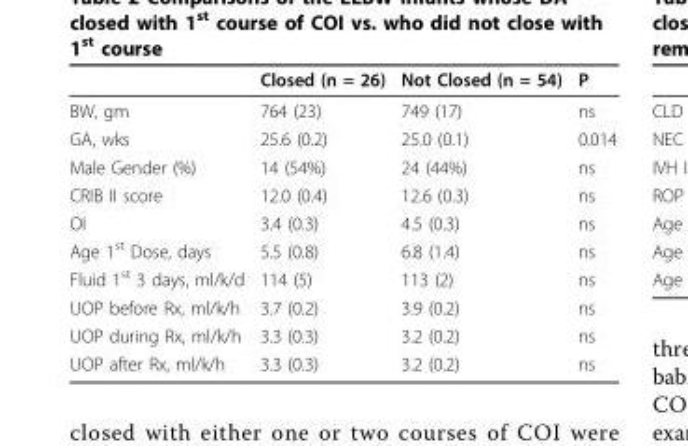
<table><thead><tr><td></td><td>Closed (n = 26)</td><td>Not Closed (n = 54)</td><td>P</td></tr></thead><tbody><tr><td>BW, gm</td><td>764 (23)</td><td>749 (17)</td><td>ns</td></tr><tr><td>GA, wks</td><td>25.6 (0.2)</td><td>25.0 (0.1)</td><td>0.014</td></tr><tr><td>Male Gender (%)</td><td>14 (54%)</td><td>24 (44%)</td><td>ns</td></tr><tr><td>CRIB II score</td><td>12.0 (0.4)</td><td>12.6 (0.3)</td><td>ns</td></tr><tr><td>OI</td><td>3.4 (0.3)</td><td>4.5 (0.3)</td><td>ns</td></tr><tr><td>Age 1<sup>st</sup> Dose, days</td><td>5.5 (0.8)</td><td>6.8 (1.4)</td><td>ns</td></tr><tr><td>Fluid 1<sup>st</sup> 3 days, ml/k/d</td><td>114 (5)</td><td>113 (2)</td><td>ns</td></tr><tr><td>UOP before Rx, ml/k/h</td><td>3.7 (0.2)</td><td>3.9 (0.2)</td><td>ns</td></tr><tr><td>UOP during Rx, ml/k/h</td><td>3.3 (0.3)</td><td>3.2 (0.2)</td><td>ns</td></tr><tr><td>UOP after Rx, ml/k/h</td><td>3.3 (0.3)</td><td>3.2 (0.2)</td><td>ns</td></tr></tbody></table>